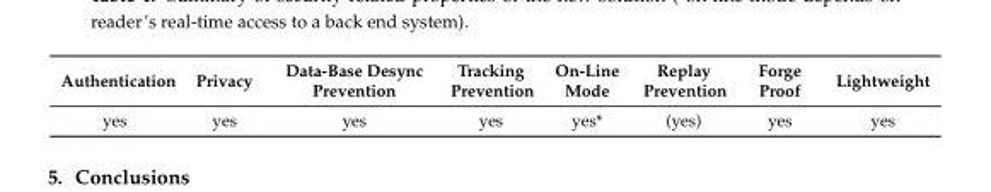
<table><thead><tr><td>Authentication</td><td>Privacy</td><td>Data-Base Desync Prevention</td><td>Tracking Prevention</td><td>On-Line Mode</td><td>Replay Prevention</td><td>Forge Proof</td><td>Lightweight</td></tr></thead><tbody><tr><td>yes</td><td>yes</td><td>yes</td><td>yes</td><td>yes*</td><td>(yes)</td><td>yes</td><td>yes</td></tr></tbody></table>